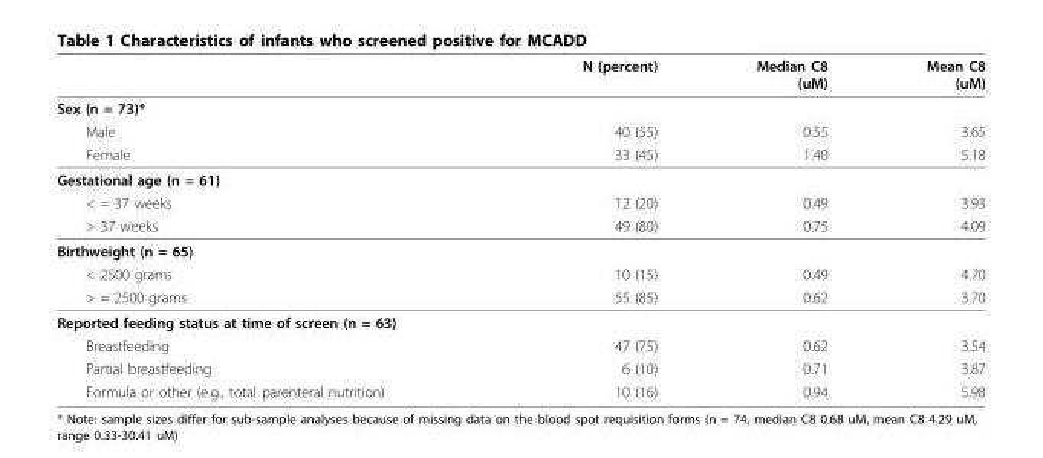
<table><thead><tr><td></td><td>N (percent)</td><td>Median C8 (uM)</td><td>Mean C8 (uM)</td></tr></thead><tbody><tr><td colspan="4">Sex (n = 73)*</td></tr><tr><td>Male</td><td>40 (55)</td><td>0.55</td><td>3.65</td></tr><tr><td>Female</td><td>33 (45)</td><td>1.40</td><td>5.18</td></tr><tr><td colspan="4">Gestational age (n = 61)</td></tr><tr><td>&lt; = 37 weeks</td><td>12 (20)</td><td>0.49</td><td>3.93</td></tr><tr><td>&gt; 37 weeks</td><td>49 (80)</td><td>0.75</td><td>4.09</td></tr><tr><td colspan="4">Birthweight (n = 65)</td></tr><tr><td>&lt; 2500 grams</td><td>10 (15)</td><td>0.49</td><td>4.70</td></tr><tr><td>&gt; = 2500 grams</td><td>55 (85)</td><td>0.62</td><td>3.70</td></tr><tr><td colspan="4">Reported feeding status at time of screen (n = 63)</td></tr><tr><td>Breastfeeding</td><td>47 (75)</td><td>0.62</td><td>3.54</td></tr><tr><td>Partial breastfeeding</td><td>6 (10)</td><td>0.71</td><td>3.87</td></tr><tr><td>Formula or other (e.g., total parenteral nutrition)</td><td>10 (16)</td><td>0.94</td><td>5.98</td></tr></tbody></table>